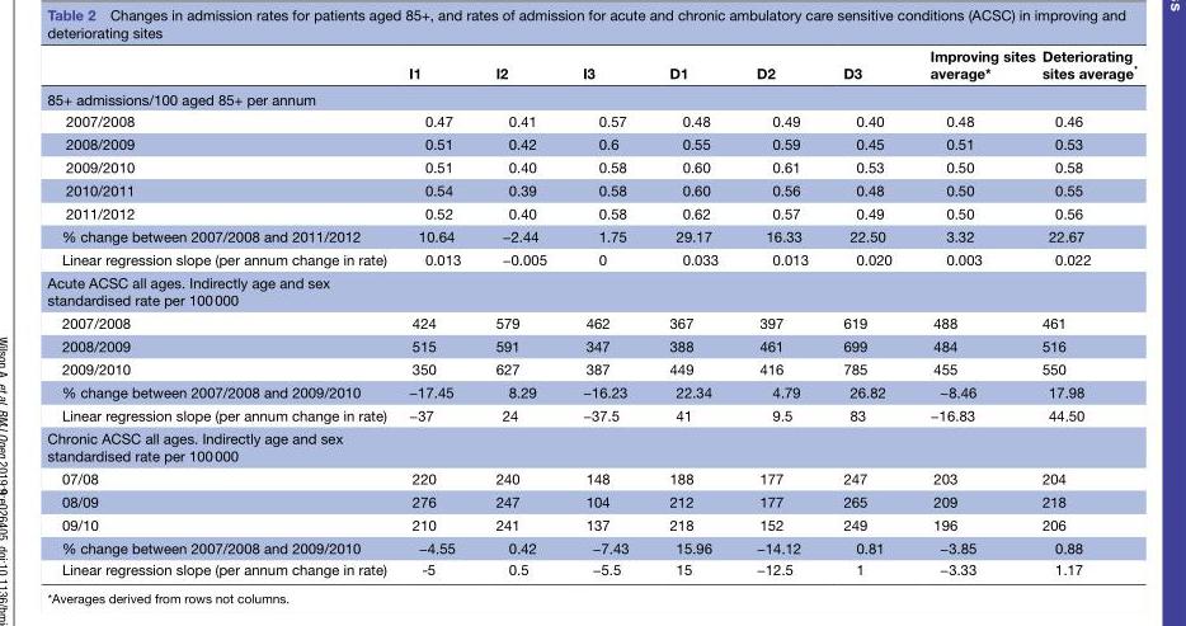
<table><thead><tr><td></td><td>I1</td><td>I2</td><td>I3</td><td>D1</td><td>D2</td><td>D3</td><td>Improving sites average*</td><td>Deteriorating sites average*</td></tr></thead><tbody><tr><td colspan="9">85+ admissions/100 aged 85+ per annum</td></tr><tr><td>2007/2008</td><td>0.47</td><td>0.41</td><td>0.57</td><td>0.48</td><td>0.49</td><td>0.40</td><td>0.48</td><td>0.46</td></tr><tr><td>2008/2009</td><td>0.51</td><td>0.42</td><td>0.6</td><td>0.55</td><td>0.59</td><td>0.45</td><td>0.51</td><td>0.53</td></tr><tr><td>2009/2010</td><td>0.51</td><td>0.40</td><td>0.58</td><td>0.60</td><td>0.61</td><td>0.53</td><td>0.50</td><td>0.58</td></tr><tr><td>2010/2011</td><td>0.54</td><td>0.39</td><td>0.58</td><td>0.60</td><td>0.56</td><td>0.48</td><td>0.50</td><td>0.55</td></tr><tr><td>2011/2012</td><td>0.52</td><td>0.40</td><td>0.58</td><td>0.62</td><td>0.57</td><td>0.49</td><td>0.50</td><td>0.56</td></tr><tr><td>% change between 2007/2008 and 2011/2012</td><td>10.64</td><td>−2.44</td><td>1.75</td><td>29.17</td><td>16.33</td><td>22.50</td><td>3.32</td><td>22.67</td></tr><tr><td>Linear regression slope (per annum change in rate)</td><td>0.013</td><td>−0.005</td><td>0</td><td>0.033</td><td>0.013</td><td>0.020</td><td>0.003</td><td>0.022</td></tr><tr><td colspan="9">Acute ACSC all ages. Indirectly age and sex standardised rate per 100 000</td></tr><tr><td>2007/2008</td><td>424</td><td>579</td><td>462</td><td>367</td><td>397</td><td>619</td><td>488</td><td>461</td></tr><tr><td>2008/2009</td><td>515</td><td>591</td><td>347</td><td>388</td><td>461</td><td>699</td><td>484</td><td>516</td></tr><tr><td>2009/2010</td><td>350</td><td>627</td><td>387</td><td>449</td><td>416</td><td>785</td><td>455</td><td>550</td></tr><tr><td>% change between 2007/2008 and 2009/2010</td><td>−17.45</td><td>8.29</td><td>−16.23</td><td>22.34</td><td>4.79</td><td>26.82</td><td>−8.46</td><td>17.98</td></tr><tr><td>Linear regression slope (per annum change in rate)</td><td>−37</td><td>24</td><td>−37.5</td><td>41</td><td>9.5</td><td>83</td><td>−16.83</td><td>44.50</td></tr><tr><td colspan="9">Chronic ACSC all ages. Indirectly age and sex standardised rate per 100 000</td></tr><tr><td>07/08</td><td>220</td><td>240</td><td>148</td><td>188</td><td>177</td><td>247</td><td>203</td><td>204</td></tr><tr><td>08/09</td><td>276</td><td>247</td><td>104</td><td>212</td><td>177</td><td>265</td><td>209</td><td>218</td></tr><tr><td>09/10</td><td>210</td><td>241</td><td>137</td><td>218</td><td>152</td><td>249</td><td>196</td><td>206</td></tr><tr><td>% change between 2007/2008 and 2009/2010</td><td>−4.55</td><td>0.42</td><td>−7.43</td><td>15.96</td><td>−14.12</td><td>0.81</td><td>−3.85</td><td>0.88</td></tr><tr><td>Linear regression slope (per annum change in rate)</td><td>-5</td><td>0.5</td><td>−5.5</td><td>15</td><td>−12.5</td><td>1</td><td>−3.33</td><td>1.17</td></tr></tbody></table>